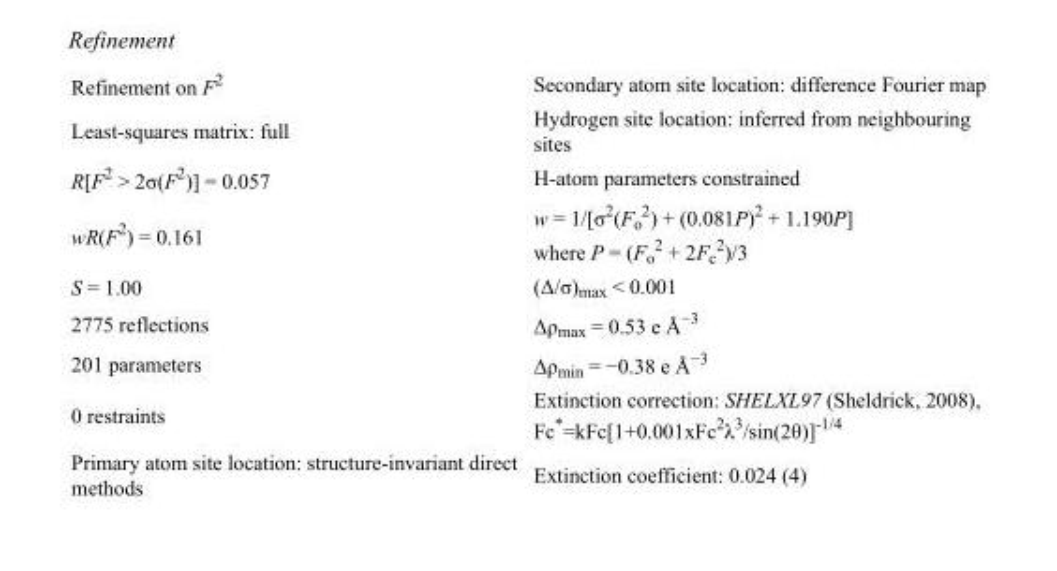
<table><tbody><tr><td>Refinement on F<sup>2</sup></td><td>Secondary atom site location: difference Fourier map</td></tr><tr><td>Least-squares matrix: full</td><td>Hydrogen site location: inferred from neighbouring sites</td></tr><tr><td>R[F<sup>2</sup> &gt; 2σ(F<sup>2</sup>)] = 0.057</td><td>H-atom parameters constrained</td></tr><tr><td>wR(F<sup>2</sup>) = 0.161</td><td>w = 1/[σ<sup>2</sup>(F<sub>o</sub> <sup>2</sup>) + (0.081P)<sup>2</sup> + 1.190P] where P = (F<sub>o</sub> <sup>2</sup> + 2F<sub>c</sub> <sup>2</sup>)/3</td></tr><tr><td>S = 1.00</td><td>(Δ/σ)<sub>max</sub> &lt; 0.001</td></tr><tr><td>2775 reflections</td><td>Δρ<sub>max</sub> = 0.53 e Å<sup>−3</sup></td></tr><tr><td>201 parameters</td><td>Δρ<sub>min</sub> = −0.38 e Å<sup>−3</sup></td></tr><tr><td>0 restraints</td><td>Extinction correction: SHELXL97 (Sheldrick, 2008), Fc*=kFc[1+0.001xFc<sup>2</sup>λ<sup>3</sup>/sin(2θ)]<sup>-1/4</sup></td></tr><tr><td>Primary atom site location: structure-invariant direct methods</td><td>Extinction coefficient: 0.024 (4)</td></tr></tbody></table>